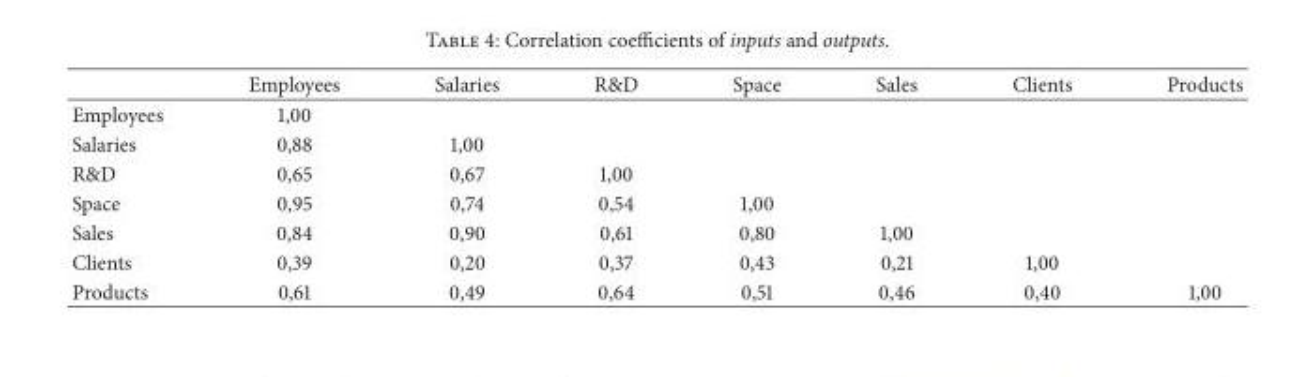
<table><thead><tr><td></td><td>Employees</td><td>Salaries</td><td>R&amp;D</td><td>Space</td><td>Sales</td><td>Clients</td><td>Products</td></tr></thead><tbody><tr><td>Employees</td><td>1,00</td><td></td><td></td><td></td><td></td><td></td><td></td></tr><tr><td>Salaries</td><td>0,88</td><td>1,00</td><td></td><td></td><td></td><td></td><td></td></tr><tr><td>R&amp;D</td><td>0,65</td><td>0,67</td><td>1,00</td><td></td><td></td><td></td><td></td></tr><tr><td>Space</td><td>0,95</td><td>0,74</td><td>0,54</td><td>1,00</td><td></td><td></td><td></td></tr><tr><td>Sales</td><td>0,84</td><td>0,90</td><td>0,61</td><td>0,80</td><td>1,00</td><td></td><td></td></tr><tr><td>Clients</td><td>0,39</td><td>0,20</td><td>0,37</td><td>0,43</td><td>0,21</td><td>1,00</td><td></td></tr><tr><td>Products</td><td>0,61</td><td>0,49</td><td>0,64</td><td>0,51</td><td>0,46</td><td>0,40</td><td>1,00</td></tr></tbody></table>